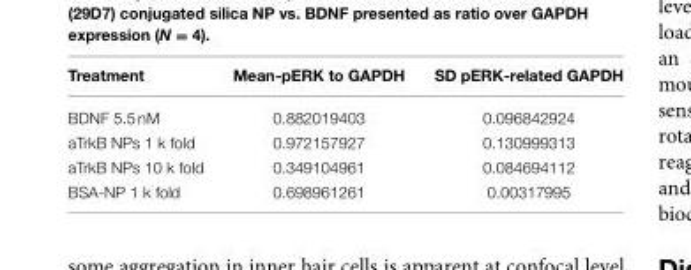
<table><thead><tr><td>Treatment</td><td>Mean-pERK to GAPDH</td><td>SD pERK-related GAPDH</td></tr></thead><tbody><tr><td>BDNF 5.5 nM</td><td>0.882019403</td><td>0.096842924</td></tr><tr><td>aTrkB NPs 1 k fold</td><td>0.972157927</td><td>0.130999313</td></tr><tr><td>aTrkB NPs 10 k fold</td><td>0.349104961</td><td>0.084694112</td></tr><tr><td>BSA-NP 1 k fold</td><td>0.698961261</td><td>0.00317995</td></tr></tbody></table>